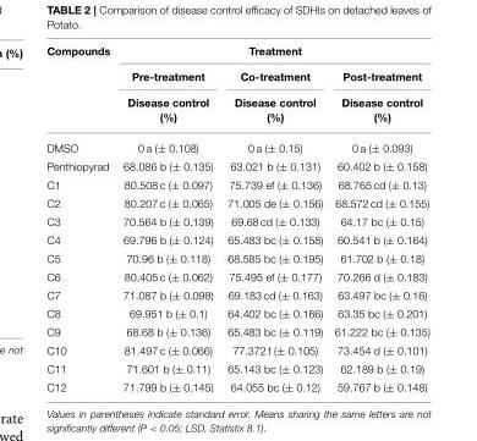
<table><thead><tr><td rowspan="3">Compounds</td><td colspan="3">Treatment</td></tr><tr><td rowspan="2">Pre-treatment Disease control (%)</td><td rowspan="2">Co-treatment Disease control (%)</td><td rowspan="2">Post-treatment Disease control (%)</td></tr><tr></tr></thead><tbody><tr><td>DMSO</td><td>0 a (± 0.108)</td><td>0 a (± 0.15)</td><td>0 a (± 0.093)</td></tr><tr><td>Penthiopyrad</td><td>68.086 b (± 0.135)</td><td>63.021 b (± 0.131)</td><td>60.402 b (± 0.158)</td></tr><tr><td>C1</td><td>80.508 c (± 0.097)</td><td>75.739 ef (± 0.136)</td><td>68.765 cd (± 0.13)</td></tr><tr><td>C2</td><td>80.207 c (± 0.065)</td><td>71.005 de (± 0.156)</td><td>68.572 cd (± 0.155)</td></tr><tr><td>C3</td><td>70.564 b (± 0.139)</td><td>69.68 cd (± 0.133)</td><td>64.17 bc (± 0.15)</td></tr><tr><td>C4</td><td>69.796 b (± 0.124)</td><td>65.483 bc (± 0.158)</td><td>60.541 b (± 0.164)</td></tr><tr><td>C5</td><td>70.96 b (± 0.118)</td><td>68.585 bc (± 0.195)</td><td>61.702 b (± 0.18)</td></tr><tr><td>C6</td><td>80.405 c (± 0.062)</td><td>75.495 ef (± 0.177)</td><td>70.266 d (± 0.183)</td></tr><tr><td>C7</td><td>71.087 b (± 0.098)</td><td>69.183 cd (± 0.163)</td><td>63.497 bc (± 0.16)</td></tr><tr><td>C8</td><td>69.951 b (± 0.1)</td><td>64.402 bc (± 0.166)</td><td>63.35 bc (± 0.201)</td></tr><tr><td>C9</td><td>68.68 b (± 0.136)</td><td>65.483 bc (± 0.119)</td><td>61.222 bc (± 0.135)</td></tr><tr><td>C10</td><td>81.497 c (± 0.066)</td><td>77.372 f (± 0.105)</td><td>73.454 d (± 0.101)</td></tr><tr><td>C11</td><td>71.601 b (± 0.11)</td><td>65.143 bc (± 0.123)</td><td>62.189 b (± 0.19)</td></tr><tr><td>C12</td><td>71.799 b (± 0.145)</td><td>64.055 bc (± 0.12)</td><td>59.767 b (± 0.148)</td></tr></tbody></table>